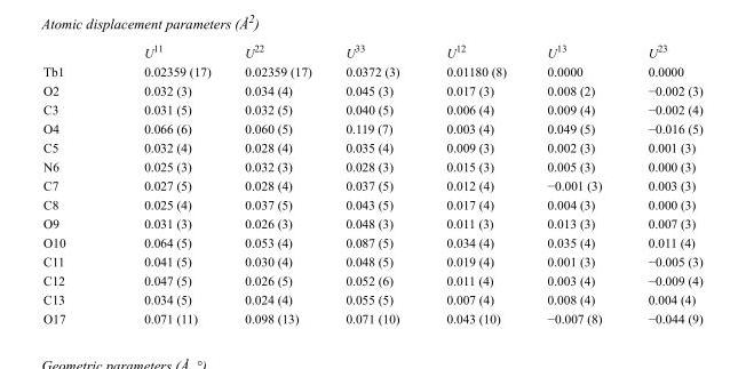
<table><thead><tr><td></td><td>U<sup>11</sup></td><td>U<sup>22</sup></td><td>U<sup>33</sup></td><td>U<sup>12</sup></td><td>U<sup>13</sup></td><td>U<sup>23</sup></td></tr></thead><tbody><tr><td>Tb1</td><td>0.02359 (17)</td><td>0.02359 (17)</td><td>0.0372 (3)</td><td>0.01180 (8)</td><td>0.0000</td><td>0.0000</td></tr><tr><td>O2</td><td>0.032 (3)</td><td>0.034 (4)</td><td>0.045 (3)</td><td>0.017 (3)</td><td>0.008 (2)</td><td>−0.002 (3)</td></tr><tr><td>C3</td><td>0.031 (5)</td><td>0.032 (5)</td><td>0.040 (5)</td><td>0.006 (4)</td><td>0.009 (4)</td><td>−0.002 (4)</td></tr><tr><td>O4</td><td>0.066 (6)</td><td>0.060 (5)</td><td>0.119 (7)</td><td>0.003 (4)</td><td>0.049 (5)</td><td>−0.016 (5)</td></tr><tr><td>C5</td><td>0.032 (4)</td><td>0.028 (4)</td><td>0.035 (4)</td><td>0.009 (3)</td><td>0.002 (3)</td><td>0.001 (3)</td></tr><tr><td>N6</td><td>0.025 (3)</td><td>0.032 (3)</td><td>0.028 (3)</td><td>0.015 (3)</td><td>0.005 (3)</td><td>0.000 (3)</td></tr><tr><td>C7</td><td>0.027 (5)</td><td>0.028 (4)</td><td>0.037 (5)</td><td>0.012 (4)</td><td>−0.001 (3)</td><td>0.003 (3)</td></tr><tr><td>C8</td><td>0.025 (4)</td><td>0.037 (5)</td><td>0.043 (5)</td><td>0.017 (4)</td><td>0.004 (3)</td><td>0.000 (3)</td></tr><tr><td>O9</td><td>0.031 (3)</td><td>0.026 (3)</td><td>0.048 (3)</td><td>0.011 (3)</td><td>0.013 (3)</td><td>0.007 (3)</td></tr><tr><td>O10</td><td>0.064 (5)</td><td>0.053 (4)</td><td>0.087 (5)</td><td>0.034 (4)</td><td>0.035 (4)</td><td>0.011 (4)</td></tr><tr><td>C11</td><td>0.041 (5)</td><td>0.030 (4)</td><td>0.048 (5)</td><td>0.019 (4)</td><td>0.001 (3)</td><td>−0.005 (3)</td></tr><tr><td>C12</td><td>0.047 (5)</td><td>0.026 (5)</td><td>0.052 (6)</td><td>0.011 (4)</td><td>0.003 (4)</td><td>−0.009 (4)</td></tr><tr><td>C13</td><td>0.034 (5)</td><td>0.024 (4)</td><td>0.055 (5)</td><td>0.007 (4)</td><td>0.008 (4)</td><td>0.004 (4)</td></tr><tr><td>O17</td><td>0.071 (11)</td><td>0.098 (13)</td><td>0.071 (10)</td><td>0.043 (10)</td><td>−0.007 (8)</td><td>−0.044 (9)</td></tr></tbody></table>